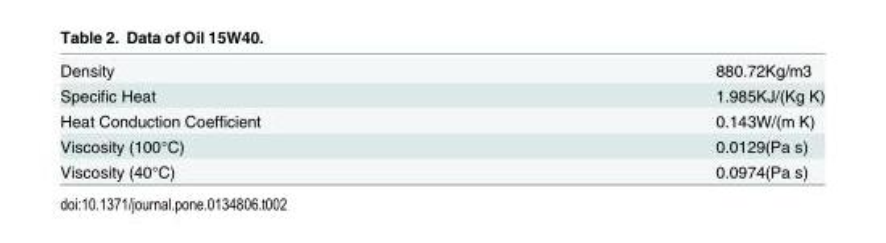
<table><tbody><tr><td>Density</td><td>880.72Kg/m3</td></tr><tr><td>Specific Heat</td><td>1.985KJ/(Kg K)</td></tr><tr><td>Heat Conduction Coefficient</td><td>0.143W/(m K)</td></tr><tr><td>Viscosity (100°C)</td><td>0.0129(Pa s)</td></tr><tr><td>Viscosity (40°C)</td><td>0.0974(Pa s)</td></tr></tbody></table>